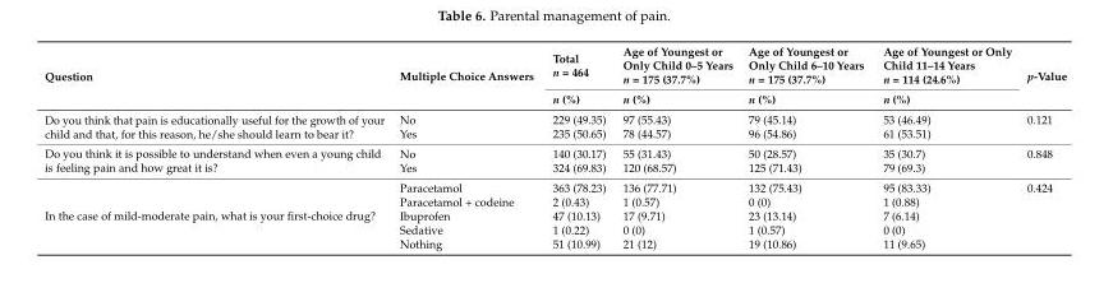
<table><thead><tr><td rowspan="2">Question</td><td rowspan="2">Multiple Choice Answers</td><td rowspan="2">Total n = 464 n (%)</td><td rowspan="2">Age of Youngest or Only Child 0–5 Years n = 175 (37.7%) n (%)</td><td rowspan="2">Age of Youngest or Only Child 6–10 Years n = 175 (37.7%) n (%)</td><td rowspan="2">Age of Youngest or Only Child 11–14 Years n = 114 (24.6%) n (%)</td><td rowspan="2">p-Value</td></tr><tr></tr></thead><tbody><tr><td rowspan="2">Do you think that pain is educationally useful for the growth of your child and that, for this reason, he/she should learn to bear it?</td><td>No</td><td>229 (49.35)</td><td>97 (55.43)</td><td>79 (45.14)</td><td>53 (46.49)</td><td>0.121</td></tr><tr><td>Yes</td><td>235 (50.65)</td><td>78 (44.57)</td><td>96 (54.86)</td><td>61 (53.51)</td><td></td></tr><tr><td rowspan="2">Do you think it is possible to understand when even a young child is feeling pain and how great it is?</td><td>No</td><td>140 (30.17)</td><td>55 (31.43)</td><td>50 (28.57)</td><td>35 (30.7)</td><td>0.848</td></tr><tr><td>Yes</td><td>324 (69.83)</td><td>120 (68.57)</td><td>125 (71.43)</td><td>79 (69.3)</td><td></td></tr><tr><td rowspan="5">In the case of mild-moderate pain, what is your first-choice drug?</td><td>Paracetamol</td><td>363 (78.23)</td><td>136 (77.71)</td><td>132 (75.43)</td><td>95 (83.33)</td><td>0.424</td></tr><tr><td>Paracetamol + codeine</td><td>2 (0.43)</td><td>1 (0.57)</td><td>0 (0)</td><td>1 (0.88)</td><td></td></tr><tr><td>Ibuprofen</td><td>47 (10.13)</td><td>17 (9.71)</td><td>23 (13.14)</td><td>7 (6.14)</td><td></td></tr><tr><td>Sedative</td><td>1 (0.22)</td><td>0 (0)</td><td>1 (0.57)</td><td>0 (0)</td><td></td></tr><tr><td>Nothing</td><td>51 (10.99)</td><td>21 (12)</td><td>19 (10.86)</td><td>11 (9.65)</td><td></td></tr></tbody></table>